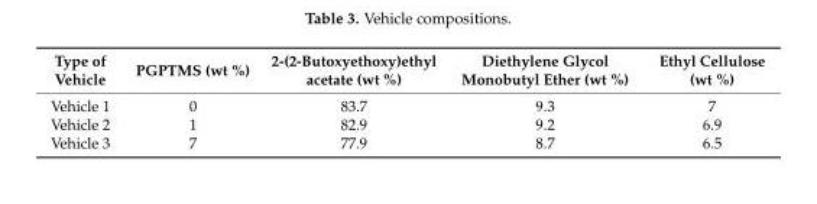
<table><thead><tr><td>Type of Vehicle</td><td>PGPTMS (wt %)</td><td>2-(2-Butoxyethoxy)ethyl acetate (wt %)</td><td>Diethylene Glycol Monobutyl Ether (wt %)</td><td>Ethyl Cellulose (wt %)</td></tr></thead><tbody><tr><td>Vehicle 1</td><td>0</td><td>83.7</td><td>9.3</td><td>7</td></tr><tr><td>Vehicle 2</td><td>1</td><td>82.9</td><td>9.2</td><td>6.9</td></tr><tr><td>Vehicle 3</td><td>7</td><td>77.9</td><td>8.7</td><td>6.5</td></tr></tbody></table>